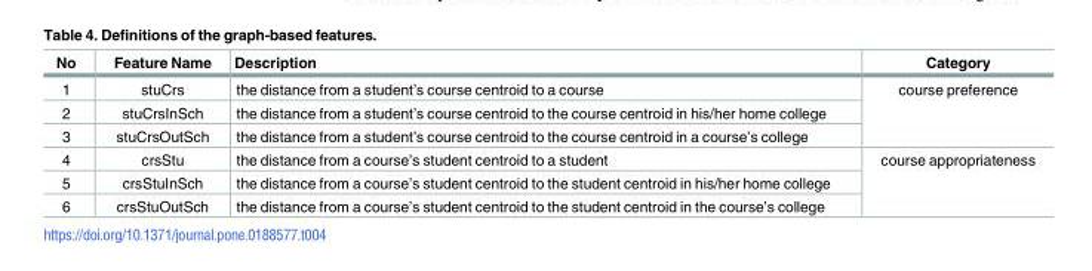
<table><thead><tr><td>No</td><td>Feature Name</td><td>Description</td><td>Category</td></tr></thead><tbody><tr><td>1</td><td>stuCrs</td><td>the distance from a student’s course centroid to a course</td><td rowspan="3">course preference</td></tr><tr><td>2</td><td>stuCrsInSch</td><td>the distance from a student’s course centroid to the course centroid in his/her home college</td></tr><tr><td>3</td><td>stuCrsOutSch</td><td>the distance from a student’s course centroid to the course centroid in a course’s college</td></tr><tr><td>4</td><td>crsStu</td><td>the distance from a course’s student centroid to a student</td><td rowspan="3">course appropriateness</td></tr><tr><td>5</td><td>crsStuInSch</td><td>the distance from a course’s student centroid to the student centroid in his/her home college</td></tr><tr><td>6</td><td>crsStuOutSch</td><td>the distance from a course’s student centroid to the student centroid in the course’s college</td></tr></tbody></table>